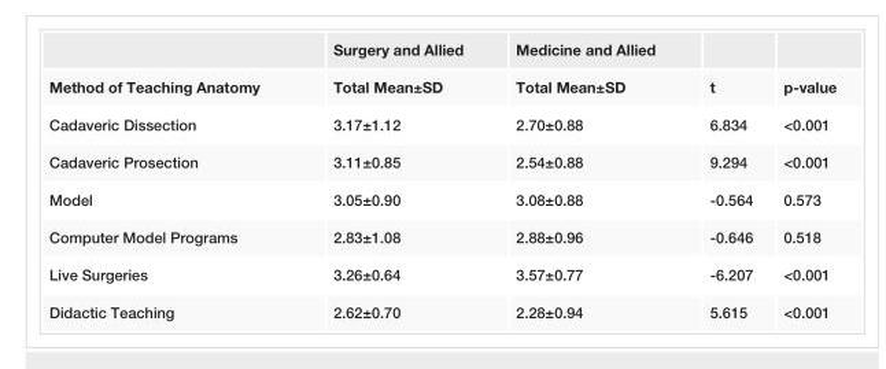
<table><thead><tr><td></td><td>Surgery and Allied</td><td>Medicine and Allied</td><td></td><td></td></tr></thead><tbody><tr><td>Method of Teaching Anatomy</td><td>Total Mean±SD</td><td>Total Mean±SD</td><td>t</td><td>p-value</td></tr><tr><td>Cadaveric Dissection</td><td>3.17±1.12</td><td>2.70±0.88</td><td>6.834</td><td>&lt;0.001</td></tr><tr><td>Cadaveric Prosection</td><td>3.11±0.85</td><td>2.54±0.88</td><td>9.294</td><td>&lt;0.001</td></tr><tr><td>Model</td><td>3.05±0.90</td><td>3.08±0.88</td><td>-0.564</td><td>0.573</td></tr><tr><td>Computer Model Programs</td><td>2.83±1.08</td><td>2.88±0.96</td><td>-0.646</td><td>0.518</td></tr><tr><td>Live Surgeries</td><td>3.26±0.64</td><td>3.57±0.77</td><td>-6.207</td><td>&lt;0.001</td></tr><tr><td>Didactic Teaching</td><td>2.62±0.70</td><td>2.28±0.94</td><td>5.615</td><td>&lt;0.001</td></tr></tbody></table>